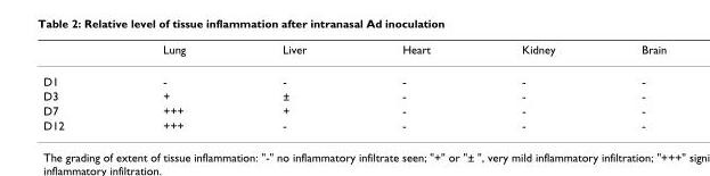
<table><thead><tr><td></td><td>Lung</td><td>Liver</td><td>Heart</td><td>Kidney</td><td>Brain</td></tr></thead><tbody><tr><td>D1</td><td>-</td><td>-</td><td>-</td><td>-</td><td>-</td></tr><tr><td>D3</td><td>+</td><td>±</td><td>-</td><td>-</td><td>-</td></tr><tr><td>D7</td><td>+++</td><td>+</td><td>-</td><td>-</td><td>-</td></tr><tr><td>D12</td><td>+++</td><td>-</td><td>-</td><td>-</td><td>-</td></tr></tbody></table>